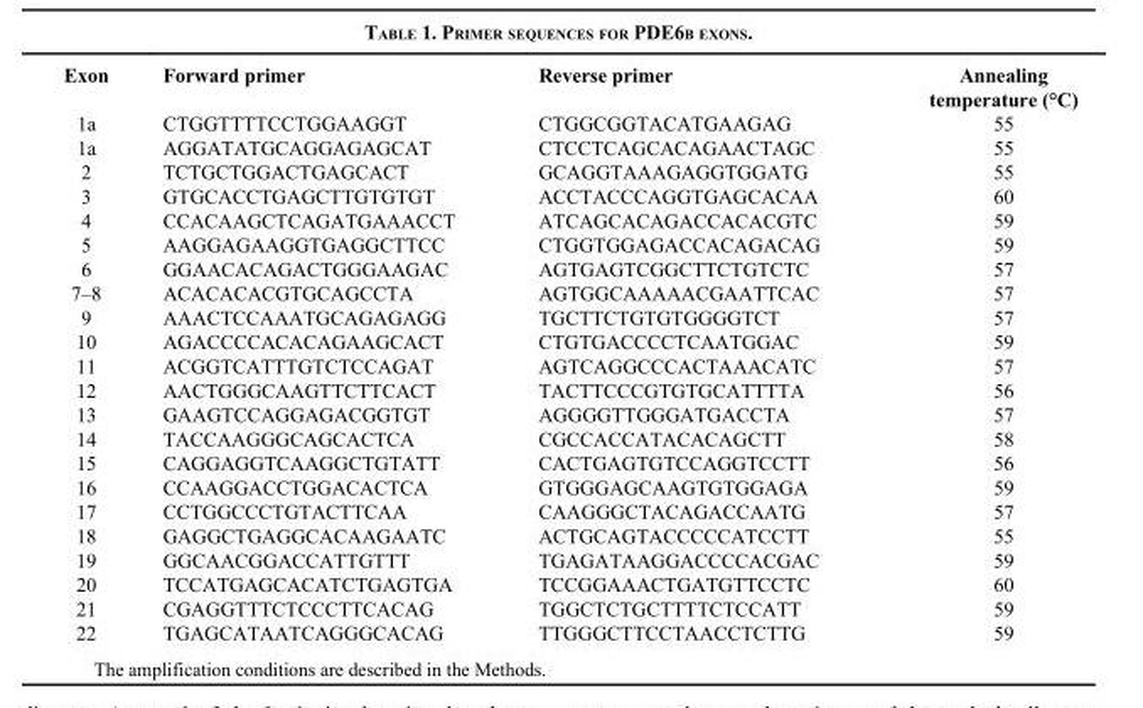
<table><thead><tr><td>Exon</td><td>Forward primer</td><td>Reverse primer</td><td>Annealing temperature (°C)</td></tr></thead><tbody><tr><td>1a</td><td>CTGGTTTTCCTGGAAGGT</td><td>CTGGCGGTACATGAAGAG</td><td>55</td></tr><tr><td>1a</td><td>AGGATATGCAGGAGAGCAT</td><td>CTCCTCAGCACAGAACTAGC</td><td>55</td></tr><tr><td>2</td><td>TCTGCTGGACTGAGCACT</td><td>GCAGGTAAAGAGGTGGATG</td><td>55</td></tr><tr><td>3</td><td>GTGCACCTGAGCTTGTGTGT</td><td>ACCTACCCAGGTGAGCACAA</td><td>60</td></tr><tr><td>4</td><td>CCACAAGCTCAGATGAAACCT</td><td>ATCAGCACAGACCACACGTC</td><td>59</td></tr><tr><td>5</td><td>AAGGAGAAGGTGAGGCTTCC</td><td>CTGGTGGAGACCACAGACAG</td><td>59</td></tr><tr><td>6</td><td>GGAACACAGACTGGGAAGAC</td><td>AGTGAGTCGGCTTCTGTCTC</td><td>57</td></tr><tr><td>7–8</td><td>ACACACACGTGCAGCCTA</td><td>AGTGGCAAAAACGAATTCAC</td><td>57</td></tr><tr><td>9</td><td>AAACTCCAAATGCAGAGAGG</td><td>TGCTTCTGTGTGGGGTCT</td><td>57</td></tr><tr><td>10</td><td>AGACCCCACACAGAAGCACT</td><td>CTGTGACCCCTCAATGGAC</td><td>59</td></tr><tr><td>11</td><td>ACGGTCATTTGTCTCCAGAT</td><td>AGTCAGGCCCACTAAACATC</td><td>57</td></tr><tr><td>12</td><td>AACTGGGCAAGTTCTTCACT</td><td>TACTTCCCGTGTGCATTTTA</td><td>56</td></tr><tr><td>13</td><td>GAAGTCCAGGAGACGGTGT</td><td>AGGGGTTGGGATGACCTA</td><td>57</td></tr><tr><td>14</td><td>TACCAAGGGCAGCACTCA</td><td>CGCCACCATACACAGCTT</td><td>58</td></tr><tr><td>15</td><td>CAGGAGGTCAAGGCTGTATT</td><td>CACTGAGTGTCCAGGTCCTT</td><td>56</td></tr><tr><td>16</td><td>CCAAGGACCTGGACACTCA</td><td>GTGGGAGCAAGTGTGGAGA</td><td>59</td></tr><tr><td>17</td><td>CCTGGCCCTGTACTTCAA</td><td>CAAGGGCTACAGACCAATG</td><td>57</td></tr><tr><td>18</td><td>GAGGCTGAGGCACAAGAATC</td><td>ACTGCAGTACCCCCATCCTT</td><td>55</td></tr><tr><td>19</td><td>GGCAACGGACCATTGTTT</td><td>TGAGATAAGGACCCCACGAC</td><td>59</td></tr><tr><td>20</td><td>TCCATGAGCACATCTGAGTGA</td><td>TCCGGAAACTGATGTTCCTC</td><td>60</td></tr><tr><td>21</td><td>CGAGGTTTCTCCCTTCACAG</td><td>TGGCTCTGCTTTTCTCCATT</td><td>59</td></tr><tr><td>22</td><td>TGAGCATAATCAGGGCACAG</td><td>TTGGGCTTCCTAACCTCTTG</td><td>59</td></tr></tbody></table>